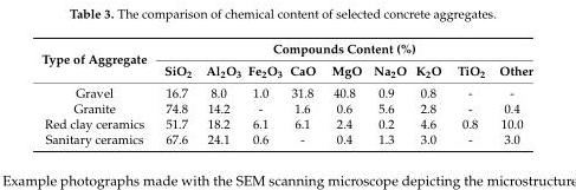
<table><thead><tr><td rowspan="2">Type of Aggregate</td><td colspan="9">Compounds Content (%)</td></tr><tr><td>SiO<sub>2</sub></td><td>Al<sub>2</sub>O<sub>3</sub></td><td>Fe<sub>2</sub>O<sub>3</sub></td><td>CaO</td><td>MgO</td><td>Na<sub>2</sub>O</td><td>K<sub>2</sub>O</td><td>TiO<sub>2</sub></td><td>Other</td></tr></thead><tbody><tr><td>Gravel</td><td>16.7</td><td>8.0</td><td>1.0</td><td>31.8</td><td>40.8</td><td>0.9</td><td>0.8</td><td>-</td><td>-</td></tr><tr><td>Granite</td><td>74.8</td><td>14.2</td><td>-</td><td>1.6</td><td>0.6</td><td>5.6</td><td>2.8</td><td>-</td><td>0.4</td></tr><tr><td>Red clay ceramics</td><td>51.7</td><td>18.2</td><td>6.1</td><td>6.1</td><td>2.4</td><td>0.2</td><td>4.6</td><td>0.8</td><td>10.0</td></tr><tr><td>Sanitary ceramics</td><td>67.6</td><td>24.1</td><td>0.6</td><td>-</td><td>0.4</td><td>1.3</td><td>3.0</td><td>-</td><td>3.0</td></tr></tbody></table>